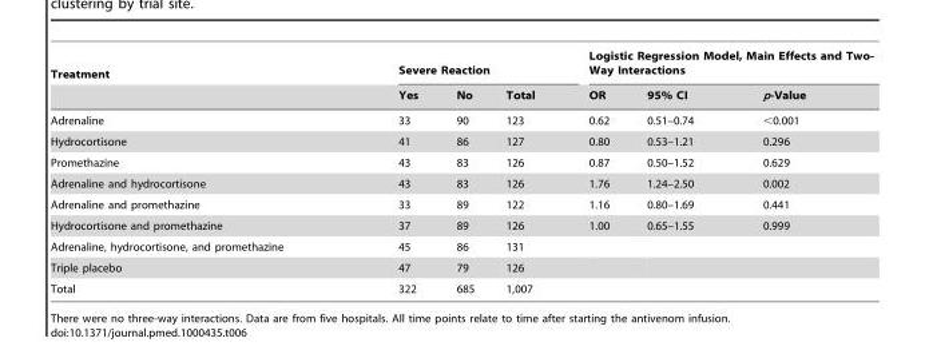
<table><thead><tr><td rowspan="2">Treatment</td><td colspan="3">Severe Reaction</td><td colspan="3">Logistic Regression Model, Main Effects and Two- Way Interactions</td></tr><tr><td>Yes</td><td>No</td><td>Total</td><td>OR</td><td>95% CI</td><td>p-Value</td></tr></thead><tbody><tr><td>Adrenaline</td><td>33</td><td>90</td><td>123</td><td>0.62</td><td>0.51–0.74</td><td>&lt;0.001</td></tr><tr><td>Hydrocortisone</td><td>41</td><td>86</td><td>127</td><td>0.80</td><td>0.53–1.21</td><td>0.296</td></tr><tr><td>Promethazine</td><td>43</td><td>83</td><td>126</td><td>0.87</td><td>0.50–1.52</td><td>0.629</td></tr><tr><td>Adrenaline and hydrocortisone</td><td>43</td><td>83</td><td>126</td><td>1.76</td><td>1.24–2.50</td><td>0.002</td></tr><tr><td>Adrenaline and promethazine</td><td>33</td><td>89</td><td>122</td><td>1.16</td><td>0.80–1.69</td><td>0.441</td></tr><tr><td>Hydrocortisone and promethazine</td><td>37</td><td>89</td><td>126</td><td>1.00</td><td>0.65–1.55</td><td>0.999</td></tr><tr><td>Adrenaline, hydrocortisone, and promethazine</td><td>45</td><td>86</td><td>131</td><td></td><td></td><td></td></tr><tr><td>Triple placebo</td><td>47</td><td>79</td><td>126</td><td></td><td></td><td></td></tr><tr><td>Total</td><td>322</td><td>685</td><td>1,007</td><td></td><td></td><td></td></tr></tbody></table>